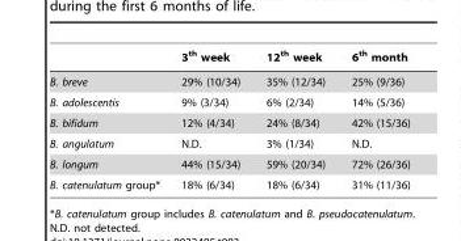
<table><thead><tr><td></td><td>3<sup>th</sup> week</td><td>12<sup>th</sup> week</td><td>6<sup>th</sup> month</td></tr></thead><tbody><tr><td>B. breve</td><td>29% (10/34)</td><td>35% (12/34)</td><td>25% (9/36)</td></tr><tr><td>B. adolescentis</td><td>9% (3/34)</td><td>6% (2/34)</td><td>14% (5/36)</td></tr><tr><td>B. bifidum</td><td>12% (4/34)</td><td>24% (8/34)</td><td>42% (15/36)</td></tr><tr><td>B. angulatum</td><td>N.D.</td><td>3% (1/34)</td><td>N.D.</td></tr><tr><td>B. longum</td><td>44% (15/34)</td><td>59% (20/34)</td><td>72% (26/36)</td></tr><tr><td>B. catenulatum group*</td><td>18% (6/34)</td><td>18% (6/34)</td><td>31% (11/36)</td></tr></tbody></table>